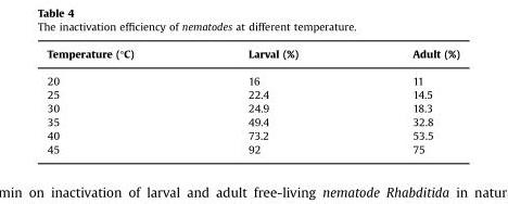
<table><thead><tr><td>Temperature (°C)</td><td>Larval (%)</td><td>Adult (%)</td></tr></thead><tbody><tr><td>20</td><td>16</td><td>11</td></tr><tr><td>25</td><td>22.4</td><td>14.5</td></tr><tr><td>30</td><td>24.9</td><td>18.3</td></tr><tr><td>35</td><td>49.4</td><td>32.8</td></tr><tr><td>40</td><td>73.2</td><td>53.5</td></tr><tr><td>45</td><td>92</td><td>75</td></tr></tbody></table>